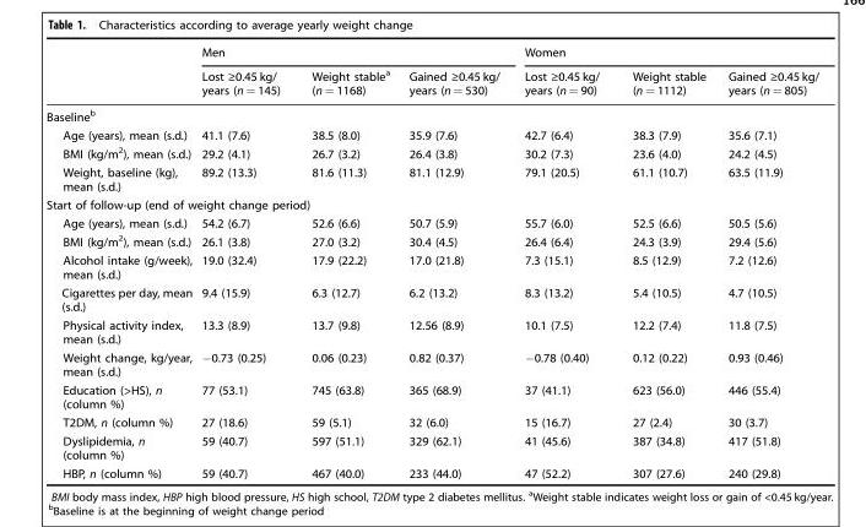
<table><thead><tr><td rowspan="2"></td><td colspan="3">Men</td><td colspan="3">Women</td></tr><tr><td>Lost ≥0.45 kg/ years (n = 145)</td><td>Weight stable<sup>a</sup> (n = 1168)</td><td>Gained ≥0.45 kg/ years (n = 530)</td><td>Lost ≥0.45 kg/ years (n = 90)</td><td>Weight stable (n = 1112)</td><td>Gained ≥0.45 kg/ years (n = 805)</td></tr></thead><tbody><tr><td colspan="7">Baseline<sup>b</sup></td></tr><tr><td>Age (years), mean (s.d.)</td><td>41.1 (7.6)</td><td>38.5 (8.0)</td><td>35.9 (7.6)</td><td>42.7 (6.4)</td><td>38.3 (7.9)</td><td>35.6 (7.1)</td></tr><tr><td>BMI (kg/m<sup>2</sup>), mean (s.d.)</td><td>29.2 (4.1)</td><td>26.7 (3.2)</td><td>26.4 (3.8)</td><td>30.2 (7.3)</td><td>23.6 (4.0)</td><td>24.2 (4.5)</td></tr><tr><td>Weight, baseline (kg), mean (s.d.)</td><td>89.2 (13.3)</td><td>81.6 (11.3)</td><td>81.1 (12.9)</td><td>79.1 (20.5)</td><td>61.1 (10.7)</td><td>63.5 (11.9)</td></tr><tr><td colspan="7">Start of follow-up (end of weight change period)</td></tr><tr><td>Age (years), mean (s.d.)</td><td>54.2 (6.7)</td><td>52.6 (6.6)</td><td>50.7 (5.9)</td><td>55.7 (6.0)</td><td>52.5 (6.6)</td><td>50.5 (5.6)</td></tr><tr><td>BMI (kg/m<sup>2</sup>), mean (s.d.)</td><td>26.1 (3.8)</td><td>27.0 (3.2)</td><td>30.4 (4.5)</td><td>26.4 (6.4)</td><td>24.3 (3.9)</td><td>29.4 (5.6)</td></tr><tr><td>Alcohol intake (g/week), mean (s.d.)</td><td>19.0 (32.4)</td><td>17.9 (22.2)</td><td>17.0 (21.8)</td><td>7.3 (15.1)</td><td>8.5 (12.9)</td><td>7.2 (12.6)</td></tr><tr><td>Cigarettes per day, mean (s.d.)</td><td>9.4 (15.9)</td><td>6.3 (12.7)</td><td>6.2 (13.2)</td><td>8.3 (13.2)</td><td>5.4 (10.5)</td><td>4.7 (10.5)</td></tr><tr><td>Physical activity index, mean (s.d.)</td><td>13.3 (8.9)</td><td>13.7 (9.8)</td><td>12.56 (8.9)</td><td>10.1 (7.5)</td><td>12.2 (7.4)</td><td>11.8 (7.5)</td></tr><tr><td>Weight change, kg/year, mean (s.d.)</td><td>−0.73 (0.25)</td><td>0.06 (0.23)</td><td>0.82 (0.37)</td><td>−0.78 (0.40)</td><td>0.12 (0.22)</td><td>0.93 (0.46)</td></tr><tr><td>Education (&gt;HS), n (column %)</td><td>77 (53.1)</td><td>745 (63.8)</td><td>365 (68.9)</td><td>37 (41.1)</td><td>623 (56.0)</td><td>446 (55.4)</td></tr><tr><td>T2DM, n (column %)</td><td>27 (18.6)</td><td>59 (5.1)</td><td>32 (6.0)</td><td>15 (16.7)</td><td>27 (2.4)</td><td>30 (3.7)</td></tr><tr><td>Dyslipidemia, n (column %)</td><td>59 (40.7)</td><td>597 (51.1)</td><td>329 (62.1)</td><td>41 (45.6)</td><td>387 (34.8)</td><td>417 (51.8)</td></tr><tr><td>HBP, n (column %)</td><td>59 (40.7)</td><td>467 (40.0)</td><td>233 (44.0)</td><td>47 (52.2)</td><td>307 (27.6)</td><td>240 (29.8)</td></tr></tbody></table>